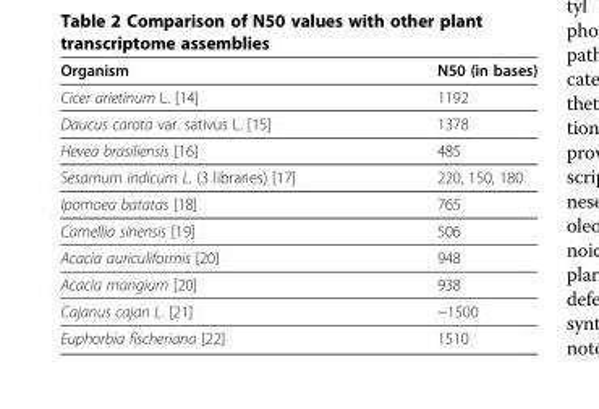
<table><thead><tr><td>Organism</td><td>N50 (in bases)</td></tr></thead><tbody><tr><td>Cicer arietinum L. [14]</td><td>1192</td></tr><tr><td>Daucus carota var. sativus L. [15]</td><td>1378</td></tr><tr><td>Hevea brasiliensis [16]</td><td>485</td></tr><tr><td>Sesamum indicum L. (3 libraries) [17]</td><td>220, 150, 180</td></tr><tr><td>Ipomoea batatas [18]</td><td>765</td></tr><tr><td>Camellia sinensis [19]</td><td>506</td></tr><tr><td>Acacia auriculiformis [20]</td><td>948</td></tr><tr><td>Acacia mangium [20]</td><td>938</td></tr><tr><td>Cajanus cajan L. [21]</td><td>~1500</td></tr><tr><td>Euphorbia fischeriana [22]</td><td>1510</td></tr></tbody></table>